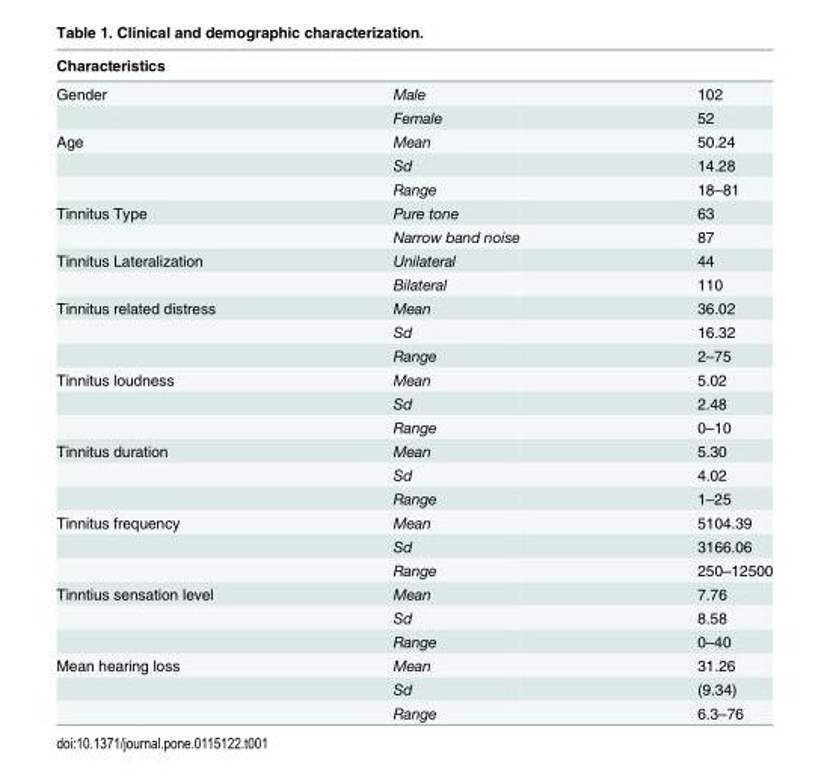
<table><thead><tr><td>Characteristics</td><td></td><td></td></tr></thead><tbody><tr><td rowspan="2">Gender</td><td>Male</td><td>102</td></tr><tr><td>Female</td><td>52</td></tr><tr><td rowspan="3">Age</td><td>Mean</td><td>50.24</td></tr><tr><td>Sd</td><td>14.28</td></tr><tr><td>Range</td><td>18–81</td></tr><tr><td rowspan="2">Tinnitus Type</td><td>Pure tone</td><td>63</td></tr><tr><td>Narrow band noise</td><td>87</td></tr><tr><td rowspan="2">Tinnitus Lateralization</td><td>Unilateral</td><td>44</td></tr><tr><td>Bilateral</td><td>110</td></tr><tr><td rowspan="3">Tinnitus related distress</td><td>Mean</td><td>36.02</td></tr><tr><td>Sd</td><td>16.32</td></tr><tr><td>Range</td><td>2–75</td></tr><tr><td rowspan="3">Tinnitus loudness</td><td>Mean</td><td>5.02</td></tr><tr><td>Sd</td><td>2.48</td></tr><tr><td>Range</td><td>0–10</td></tr><tr><td rowspan="3">Tinnitus duration</td><td>Mean</td><td>5.30</td></tr><tr><td>Sd</td><td>4.02</td></tr><tr><td>Range</td><td>1–25</td></tr><tr><td rowspan="3">Tinnitus frequency</td><td>Mean</td><td>5104.39</td></tr><tr><td>Sd</td><td>3166.06</td></tr><tr><td>Range</td><td>250–12500</td></tr><tr><td rowspan="3">Tinntius sensation level</td><td>Mean</td><td>7.76</td></tr><tr><td>Sd</td><td>8.58</td></tr><tr><td>Range</td><td>0–40</td></tr><tr><td rowspan="3">Mean hearing loss</td><td>Mean</td><td>31.26</td></tr><tr><td>Sd</td><td>(9.34)</td></tr><tr><td>Range</td><td>6.3–76</td></tr></tbody></table>